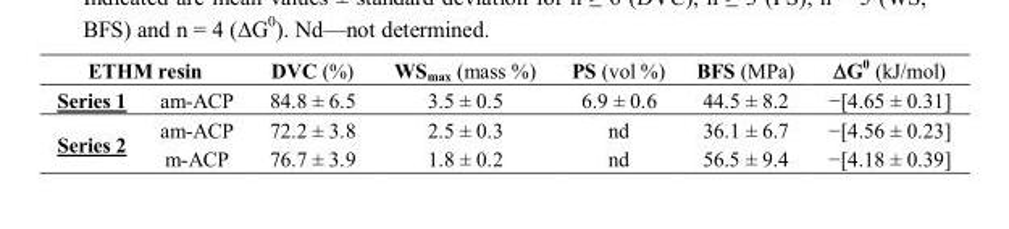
<table><thead><tr><td colspan="2">ETHM resin</td><td rowspan="2">DVC (%) 84.8 ± 6.5</td><td rowspan="2">WSmax (mass %) 3.5 ± 0.5</td><td rowspan="2">PS (vol %) 6.9 ± 0.6</td><td rowspan="2">BFS (MPa) 44.5 ± 8.2</td><td rowspan="2">ΔG0 (kJ/mol) −[4.65 ± 0.31]</td></tr><tr><td>Series 1</td><td>am-ACP</td></tr></thead><tbody><tr><td rowspan="2">Series 2</td><td>am-ACP</td><td>72.2 ± 3.8</td><td>2.5 ± 0.3</td><td>nd</td><td>36.1 ± 6.7</td><td>−[4.56 ± 0.23]</td></tr><tr><td>m-ACP</td><td>76.7 ± 3.9</td><td>1.8 ± 0.2</td><td>nd</td><td>56.5 ± 9.4</td><td>−[4.18 ± 0.39]</td></tr></tbody></table>